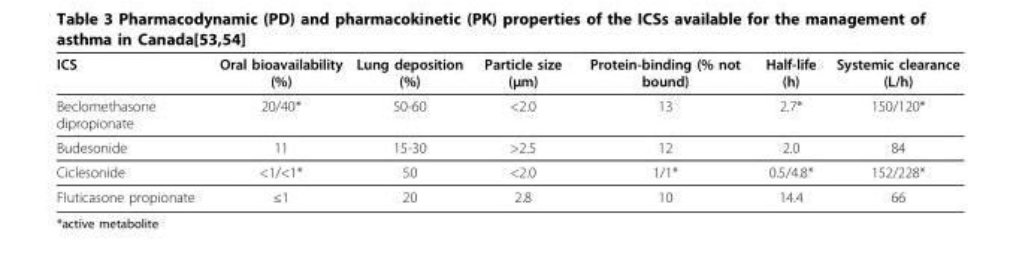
<table><thead><tr><td>ICS</td><td>Oral bioavailability (%)</td><td>Lung deposition (%)</td><td>Particle size (μm)</td><td>Protein-binding (% not bound)</td><td>Half-life (h)</td><td>Systemic clearance (L/h)</td></tr></thead><tbody><tr><td>Beclomethasone dipropionate</td><td>20/40*</td><td>50-60</td><td>&lt;2.0</td><td>13</td><td>2.7*</td><td>150/120*</td></tr><tr><td>Budesonide</td><td>11</td><td>15-30</td><td>&gt;2.5</td><td>12</td><td>2.0</td><td>84</td></tr><tr><td>Ciclesonide</td><td>&lt;1/&lt;1*</td><td>50</td><td>&lt;2.0</td><td>1/1*</td><td>0.5/4.8*</td><td>152/228*</td></tr><tr><td>Fluticasone propionate</td><td>≤1</td><td>20</td><td>2.8</td><td>10</td><td>14.4</td><td>66</td></tr></tbody></table>